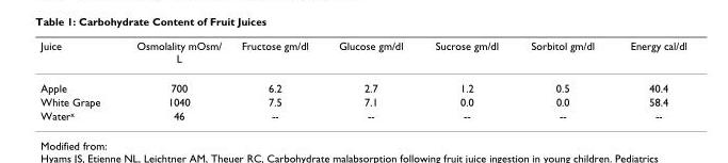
<table><thead><tr><td>Juice</td><td>Osmolality mOsm/ L</td><td>Fructose gm/dl</td><td>Glucose gm/dl</td><td>Sucrose gm/dl</td><td>Sorbitol gm/dl</td><td>Energy cal/dl</td></tr></thead><tbody><tr><td>Apple</td><td>700</td><td>6.2</td><td>2.7</td><td>1.2</td><td>0.5</td><td>40.4</td></tr><tr><td>White Grape</td><td>1040</td><td>7.5</td><td>7.1</td><td>0.0</td><td>0.0</td><td>58.4</td></tr><tr><td>Water<sup>x</sup></td><td>46</td><td>--</td><td>--</td><td>--</td><td>--</td><td>--</td></tr></tbody></table>